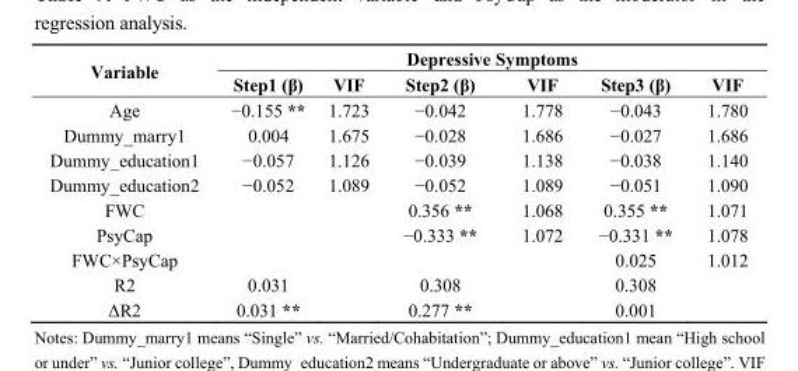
<table><thead><tr><td rowspan="2">Variable</td><td colspan="6">Depressive Symptoms</td></tr><tr><td>Step1 (β)</td><td>VIF</td><td>Step2 (β)</td><td>VIF</td><td>Step3 (β)</td><td>VIF</td></tr></thead><tbody><tr><td>Age</td><td>−0.155 **</td><td>1.723</td><td>−0.042</td><td>1.778</td><td>−0.043</td><td>1.780</td></tr><tr><td>Dummy_marry1</td><td>0.004</td><td>1.675</td><td>−0.028</td><td>1.686</td><td>−0.027</td><td>1.686</td></tr><tr><td>Dummy_education1</td><td>−0.057</td><td>1.126</td><td>−0.039</td><td>1.138</td><td>−0.038</td><td>1.140</td></tr><tr><td>Dummy_education2</td><td>−0.052</td><td>1.089</td><td>−0.052</td><td>1.089</td><td>−0.051</td><td>1.090</td></tr><tr><td>FWC</td><td></td><td></td><td>0.356 **</td><td>1.068</td><td>0.355 **</td><td>1.071</td></tr><tr><td>PsyCap</td><td></td><td></td><td>−0.333 **</td><td>1.072</td><td>−0.331 **</td><td>1.078</td></tr><tr><td>FWC×PsyCap</td><td></td><td></td><td></td><td></td><td>0.025</td><td>1.012</td></tr><tr><td>R2</td><td>0.031</td><td></td><td>0.308</td><td></td><td>0.308</td><td></td></tr><tr><td>ΔR2</td><td>0.031 **</td><td></td><td>0.277 **</td><td></td><td>0.001</td><td></td></tr></tbody></table>